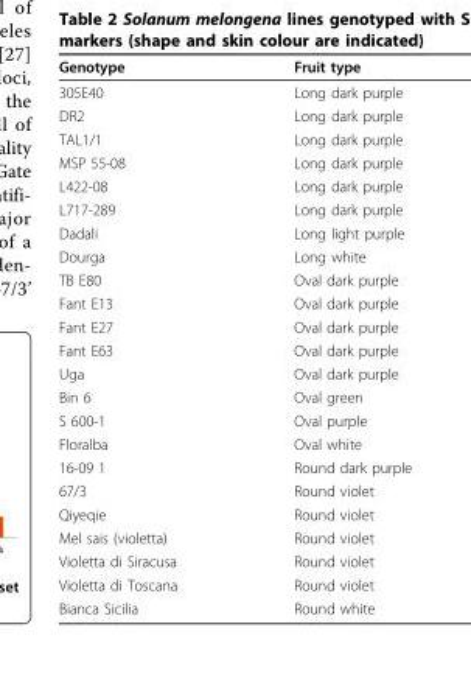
<table><thead><tr><td>Genotype</td><td>Fruit type</td></tr></thead><tbody><tr><td>305E40</td><td>Long dark purple</td></tr><tr><td>DR2</td><td>Long dark purple</td></tr><tr><td>TAL1/1</td><td>Long dark purple</td></tr><tr><td>MSP 55-08</td><td>Long dark purple</td></tr><tr><td>L422-08</td><td>Long dark purple</td></tr><tr><td>L717-289</td><td>Long dark purple</td></tr><tr><td>Dadali</td><td>Long light purple</td></tr><tr><td>Dourga</td><td>Long white</td></tr><tr><td>TB E80</td><td>Oval dark purple</td></tr><tr><td>Fant E13</td><td>Oval dark purple</td></tr><tr><td>Fant E27</td><td>Oval dark purple</td></tr><tr><td>Fant E63</td><td>Oval dark purple</td></tr><tr><td>Uga</td><td>Oval dark purple</td></tr><tr><td>Bin 6</td><td>Oval green</td></tr><tr><td>S 600-1</td><td>Oval purple</td></tr><tr><td>Floralba</td><td>Oval white</td></tr><tr><td>16-09 1</td><td>Round dark purple</td></tr><tr><td>67/3</td><td>Round violet</td></tr><tr><td>Qiyeqie</td><td>Round violet</td></tr><tr><td>Mel sais (violetta)</td><td>Round violet</td></tr><tr><td>Violetta di Siracusa</td><td>Round violet</td></tr><tr><td>Violetta di Toscana</td><td>Round violet</td></tr><tr><td>Bianca Sicilia</td><td>Round white</td></tr></tbody></table>